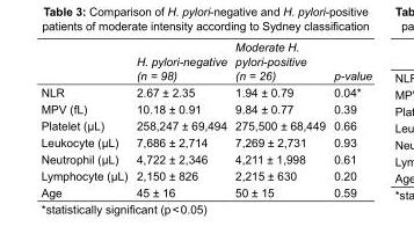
<table><thead><tr><td></td><td>H. pylori-negative (n = 98)</td><td>Moderate H. pylori-positive (n = 26)</td><td>p-value</td></tr></thead><tbody><tr><td>NLR</td><td>2.67 ± 2.35</td><td>1.94 ± 0.79</td><td>0.04*</td></tr><tr><td>MPV (fL)</td><td>10.18 ± 0.91</td><td>9.84 ± 0.77</td><td>0.39</td></tr><tr><td>Platelet (µL)</td><td>258,247 ± 69,494</td><td>275,500 ± 68,449</td><td>0.66</td></tr><tr><td>Leukocyte (µL)</td><td>7,686 ± 2,714</td><td>7,269 ± 2,731</td><td>0.93</td></tr><tr><td>Neutrophil (µL)</td><td>4,722 ± 2,346</td><td>4,211 ± 1,998</td><td>0.61</td></tr><tr><td>Lymphocyte (µL)</td><td>2,150 ± 826</td><td>2,215 ± 630</td><td>0.20</td></tr><tr><td>Age</td><td>45 ± 16</td><td>50 ± 15</td><td>0.59</td></tr></tbody></table>